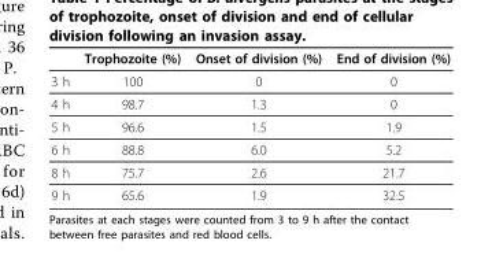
<table><thead><tr><td></td><td>Trophozoite (%)</td><td>Onset of division (%)</td><td>End of division (%)</td></tr></thead><tbody><tr><td>3 h</td><td>100</td><td>0</td><td>0</td></tr><tr><td>4 h</td><td>98.7</td><td>1.3</td><td>0</td></tr><tr><td>5 h</td><td>96.6</td><td>1.5</td><td>1.9</td></tr><tr><td>6 h</td><td>88.8</td><td>6.0</td><td>5.2</td></tr><tr><td>8 h</td><td>75.7</td><td>2.6</td><td>21.7</td></tr><tr><td>9 h</td><td>65.6</td><td>1.9</td><td>32.5</td></tr></tbody></table>